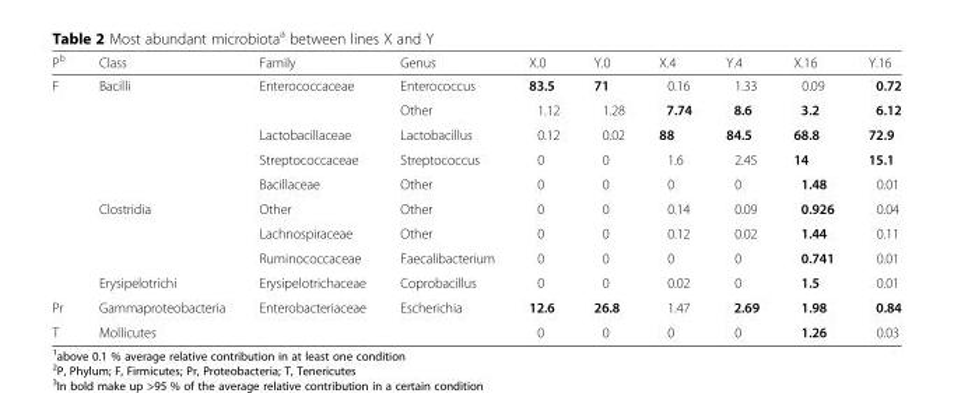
<table><thead><tr><td>P<sup>b</sup></td><td>Class</td><td>Family</td><td>Genus</td><td>X.0</td><td>Y.0</td><td>X.4</td><td>Y.4</td><td>X.16</td><td>Y.16</td></tr></thead><tbody><tr><td rowspan="9">F</td><td rowspan="5">Bacilli</td><td>Enterococcaceae</td><td>Enterococcus</td><td>83.5</td><td>71</td><td>0.16</td><td>1.33</td><td>0.09</td><td>0.72</td></tr><tr><td></td><td>Other</td><td>1.12</td><td>1.28</td><td>7.74</td><td>8.6</td><td>3.2</td><td>6.12</td></tr><tr><td>Lactobacillaceae</td><td>Lactobacillus</td><td>0.12</td><td>0.02</td><td>88</td><td>84.5</td><td>68.8</td><td>72.9</td></tr><tr><td>Streptococcaceae</td><td>Streptococcus</td><td>0</td><td>0</td><td>1.6</td><td>2.45</td><td>14</td><td>15.1</td></tr><tr><td>Bacillaceae</td><td>Other</td><td>0</td><td>0</td><td>0</td><td>0</td><td>1.48</td><td>0.01</td></tr><tr><td rowspan="3">Clostridia</td><td>Other</td><td>Other</td><td>0</td><td>0</td><td>0.14</td><td>0.09</td><td>0.926</td><td>0.04</td></tr><tr><td>Lachnospiraceae</td><td>Other</td><td>0</td><td>0</td><td>0.12</td><td>0.02</td><td>1.44</td><td>0.11</td></tr><tr><td>Ruminococcaceae</td><td>Faecalibacterium</td><td>0</td><td>0</td><td>0</td><td>0</td><td>0.741</td><td>0.01</td></tr><tr><td>Erysipelotrichi</td><td>Erysipelotrichaceae</td><td>Coprobacillus</td><td>0</td><td>0</td><td>0.02</td><td>0</td><td>1.5</td><td>0.01</td></tr><tr><td>Pr</td><td>Gammaproteobacteria</td><td>Enterobacteriaceae</td><td>Escherichia</td><td>12.6</td><td>26.8</td><td>1.47</td><td>2.69</td><td>1.98</td><td>0.84</td></tr><tr><td>T</td><td>Mollicutes</td><td></td><td></td><td>0</td><td>0</td><td>0</td><td>0</td><td>1.26</td><td>0.03</td></tr></tbody></table>